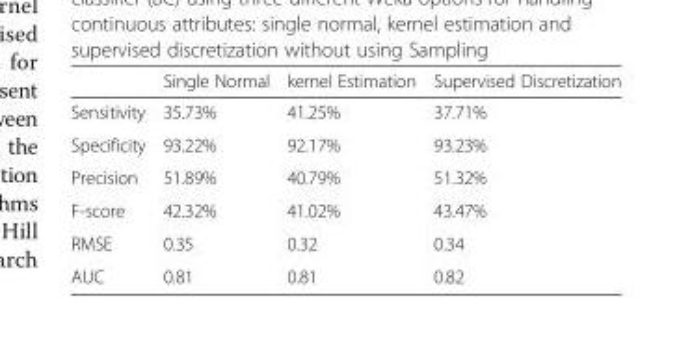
<table><thead><tr><td></td><td>Single Normal</td><td>kernel Estimation</td><td>Supervised Discretization</td></tr></thead><tbody><tr><td>Sensitivity</td><td>35.73%</td><td>41.25%</td><td>37.71%</td></tr><tr><td>Specificity</td><td>93.22%</td><td>92.17%</td><td>93.23%</td></tr><tr><td>Precision</td><td>51.89%</td><td>40.79%</td><td>51.32%</td></tr><tr><td>F-score</td><td>42.32%</td><td>41.02%</td><td>43.47%</td></tr><tr><td>RMSE</td><td>0.35</td><td>0.32</td><td>0.34</td></tr><tr><td>AUC</td><td>0.81</td><td>0.81</td><td>0.82</td></tr></tbody></table>